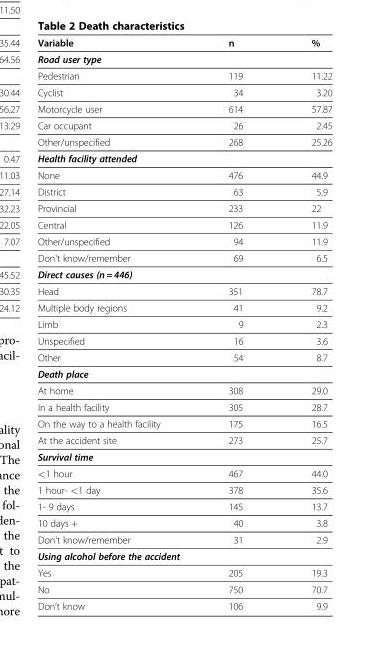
<table><thead><tr><td>Variable</td><td>n</td><td>%</td></tr></thead><tbody><tr><td colspan="3">Road user type</td></tr><tr><td>Pedestrian</td><td>119</td><td>11.22</td></tr><tr><td>Cyclist</td><td>34</td><td>3.20</td></tr><tr><td>Motorcycle user</td><td>614</td><td>57.87</td></tr><tr><td>Car occupant</td><td>26</td><td>2.45</td></tr><tr><td>Other/unspecified</td><td>268</td><td>25.26</td></tr><tr><td colspan="3">Health facility attended</td></tr><tr><td>None</td><td>476</td><td>44.9</td></tr><tr><td>District</td><td>63</td><td>5.9</td></tr><tr><td>Provincial</td><td>233</td><td>22</td></tr><tr><td>Central</td><td>126</td><td>11.9</td></tr><tr><td>Other/unspecified</td><td>94</td><td>11.9</td></tr><tr><td>Don&#x27;t know/remember</td><td>69</td><td>6.5</td></tr><tr><td colspan="3">Direct causes (n = 446)</td></tr><tr><td>Head</td><td>351</td><td>78.7</td></tr><tr><td>Multiple body regions</td><td>41</td><td>9.2</td></tr><tr><td>Limb</td><td>9</td><td>2.3</td></tr><tr><td>Unspecified</td><td>16</td><td>3.6</td></tr><tr><td>Other</td><td>54</td><td>8.7</td></tr><tr><td colspan="3">Death place</td></tr><tr><td>At home</td><td>308</td><td>29.0</td></tr><tr><td>In a health facility</td><td>305</td><td>28.7</td></tr><tr><td>On the way to a health facility</td><td>175</td><td>16.5</td></tr><tr><td>At the accident site</td><td>273</td><td>25.7</td></tr><tr><td colspan="3">Survival time</td></tr><tr><td>&lt;1 hour</td><td>467</td><td>44.0</td></tr><tr><td>1 hour- &lt;1 day</td><td>378</td><td>35.6</td></tr><tr><td>1- 9 days</td><td>145</td><td>13.7</td></tr><tr><td>10 days +</td><td>40</td><td>3.8</td></tr><tr><td>Don&#x27;t know/remember</td><td>31</td><td>2.9</td></tr><tr><td colspan="3">Using alcohol before the accident</td></tr><tr><td>Yes</td><td>205</td><td>19.3</td></tr><tr><td>No</td><td>750</td><td>70.7</td></tr><tr><td>Don’t know</td><td>106</td><td>9.9</td></tr></tbody></table>